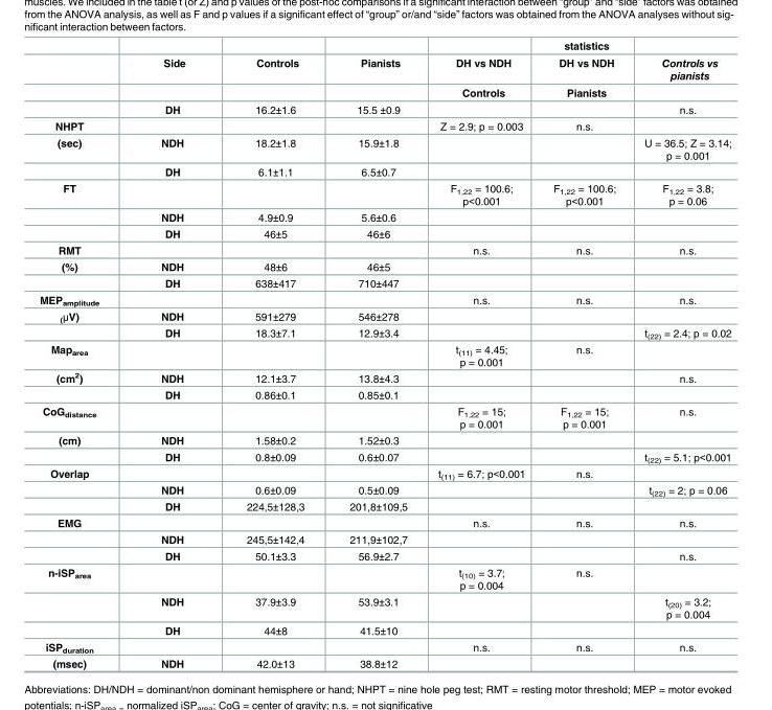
<table><thead><tr><td rowspan="3"></td><td rowspan="3">Side</td><td rowspan="3">Controls</td><td rowspan="3">Pianists</td><td rowspan="3">DH vs NDH Controls</td><td rowspan="3">statistics DH vs NDH Pianists</td><td rowspan="3">Controls vs pianists</td></tr><tr></tr><tr></tr></thead><tbody><tr><td></td><td>DH</td><td>16.2±1.6</td><td>15.5 ±0.9</td><td></td><td></td><td>n.s.</td></tr><tr><td>NHPT</td><td></td><td></td><td></td><td>Z = 2.9; p = 0.003</td><td>n.s.</td><td></td></tr><tr><td rowspan="2">(sec)</td><td>NDH</td><td>18.2±1.8</td><td>15.9±1.8</td><td></td><td></td><td>U = 36.5; Z = 3.14; p = 0.001</td></tr><tr><td>DH</td><td>6.1±1.1</td><td>6.5±0.7</td><td></td><td></td><td></td></tr><tr><td rowspan="3">FT</td><td></td><td></td><td></td><td>F<sub>1,22</sub> = 100.6; p&lt;0.001</td><td>F<sub>1,22</sub> = 100.6; p&lt;0.001</td><td>F<sub>1,22</sub> = 3.8; p = 0.06</td></tr><tr><td>NDH</td><td>4.9±0.9</td><td>5.6±0.6</td><td></td><td></td><td></td></tr><tr><td>DH</td><td>46±5</td><td>46±6</td><td></td><td></td><td></td></tr><tr><td>RMT</td><td></td><td></td><td></td><td>n.s.</td><td>n.s.</td><td>n.s.</td></tr><tr><td rowspan="2">(%)</td><td>NDH</td><td>48±6</td><td>46±5</td><td></td><td></td><td></td></tr><tr><td>DH</td><td>638±417</td><td>710±447</td><td></td><td></td><td></td></tr><tr><td>MEP<sub>amplitude</sub></td><td></td><td></td><td></td><td>n.s.</td><td>n.s.</td><td>n.s.</td></tr><tr><td rowspan="2"><sub>(</sub>μV)</td><td>NDH</td><td>591±279</td><td>546±278</td><td></td><td></td><td></td></tr><tr><td>DH</td><td>18.3±7.1</td><td>12.9±3.4</td><td></td><td></td><td>t<sub>(22)</sub> = 2.4; p = 0.02</td></tr><tr><td>Map<sub>area</sub></td><td></td><td></td><td></td><td>t<sub>(11)</sub> = 4.45; p = 0.001</td><td>n.s.</td><td></td></tr><tr><td rowspan="2">(cm<sup>2</sup>)</td><td>NDH</td><td>12.1±3.7</td><td>13.8±4.3</td><td></td><td></td><td>n.s.</td></tr><tr><td>DH</td><td>0.86±0.1</td><td>0.85±0.1</td><td></td><td></td><td></td></tr><tr><td>CoG<sub>distance</sub></td><td></td><td></td><td></td><td>F<sub>1,22</sub> = 15; p = 0.001</td><td>F<sub>1,22</sub> = 15; p = 0.001</td><td>n.s.</td></tr><tr><td rowspan="2">(cm)</td><td>NDH</td><td>1.58±0.2</td><td>1.52±0.3</td><td></td><td></td><td></td></tr><tr><td>DH</td><td>0.8±0.09</td><td>0.6±0.07</td><td></td><td></td><td>t<sub>(22)</sub> = 5.1; p&lt;0.001</td></tr><tr><td rowspan="3">Overlap</td><td></td><td></td><td></td><td>t<sub>(11)</sub> = 6.7; p&lt;0.001</td><td>n.s.</td><td></td></tr><tr><td>NDH</td><td>0.6±0.09</td><td>0.5±0.09</td><td></td><td></td><td>t<sub>(22)</sub> = 2; p = 0.06</td></tr><tr><td>DH</td><td>224,5±128,3</td><td>201,8±109,5</td><td></td><td></td><td></td></tr><tr><td rowspan="3">EMG</td><td></td><td></td><td></td><td>n.s.</td><td>n.s.</td><td>n.s.</td></tr><tr><td>NDH</td><td>245,5±142,4</td><td>211,9±102,7</td><td></td><td></td><td></td></tr><tr><td>DH</td><td>50.1±3.3</td><td>56.9±2.7</td><td></td><td></td><td>n.s.</td></tr><tr><td rowspan="3">n-iSP<sub>area</sub></td><td></td><td></td><td></td><td>t<sub>(10)</sub> = 3.7; p = 0.004</td><td>n.s.</td><td></td></tr><tr><td>NDH</td><td>37.9±3.9</td><td>53.9±3.1</td><td></td><td></td><td>t<sub>(20)</sub> = 3.2; p = 0.004</td></tr><tr><td>DH</td><td>44±8</td><td>41.5±10</td><td></td><td></td><td></td></tr><tr><td>iSP<sub>duration</sub></td><td></td><td></td><td></td><td>n.s.</td><td>n.s.</td><td>n.s.</td></tr><tr><td>(msec)</td><td>NDH</td><td>42.0±13</td><td>38.8±12</td><td></td><td></td><td></td></tr></tbody></table>